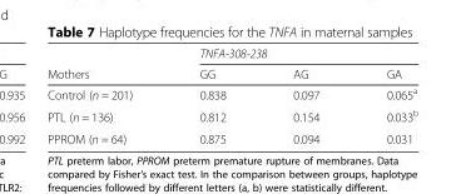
<table><thead><tr><td rowspan="2">Mothers</td><td colspan="3">TNFA-308-238</td></tr><tr><td>GG</td><td>AG</td><td>GA</td></tr></thead><tbody><tr><td>Control (n = 201)</td><td>0.838</td><td>0.097</td><td>0.065<sup>a</sup></td></tr><tr><td>PTL (n = 136)</td><td>0.812</td><td>0.154</td><td>0.033<sup>b</sup></td></tr><tr><td>PPROM (n = 64)</td><td>0.875</td><td>0.094</td><td>0.031</td></tr></tbody></table>